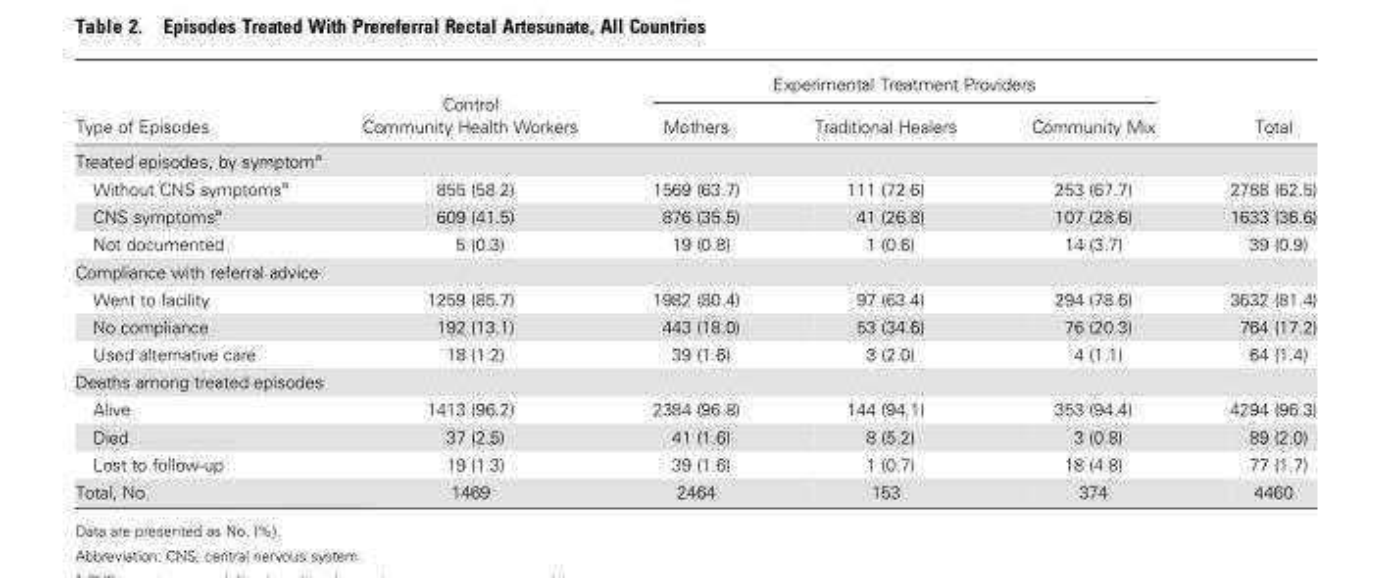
<table><thead><tr><td rowspan="2">Type of Episodes</td><td rowspan="2">Control Community Health Workers</td><td colspan="3">Experimental Treatment Providers</td><td rowspan="2">Total</td></tr><tr><td>Mothers</td><td>Traditional Healers</td><td>Community Mix</td></tr></thead><tbody><tr><td colspan="6">Treated episodes, by symptom<sup>a</sup></td></tr><tr><td>Without CNS symptoms<sup>a</sup></td><td>855 (58.2)</td><td>1569 (63.7)</td><td>111 (72.6)</td><td>253 (67.7)</td><td>2788 (62.5)</td></tr><tr><td>CNS symptoms<sup>a</sup></td><td>609 (41.5)</td><td>876 (35.5)</td><td>41 (26.8)</td><td>107 (28.6)</td><td>1633 (36.6)</td></tr><tr><td>Not documented</td><td>5 (0.3)</td><td>19 (0.8)</td><td>1 (0.6)</td><td>14 (3.7)</td><td>39 (0.9)</td></tr><tr><td colspan="6">Compliance with referral advice</td></tr><tr><td>Went to facility</td><td>1259 (85.7)</td><td>1982 (80.4)</td><td>97 (63.4)</td><td>294 (78.6)</td><td>3632 (81.4)</td></tr><tr><td>No compliance</td><td>192 (13.1)</td><td>443 (18.0)</td><td>53 (34.6)</td><td>76 (20.3)</td><td>764 (17.2)</td></tr><tr><td>Used alternative care</td><td>18 (1.2)</td><td>39 (1.6)</td><td>3 (2.0)</td><td>4 (1.1)</td><td>64 (1.4)</td></tr><tr><td colspan="6">Deaths among treated episodes</td></tr><tr><td>Alive</td><td>1413 (96.2)</td><td>2384 (96.8)</td><td>144 (94.1)</td><td>353 (94.4)</td><td>4294 (96.3)</td></tr><tr><td>Died</td><td>37 (2.5)</td><td>41 (1.6)</td><td>8 (5.2)</td><td>3 (0.8)</td><td>89 (2.0)</td></tr><tr><td>Lost to follow-up</td><td>19 (1.3)</td><td>39 (1.6)</td><td>1 (0.7)</td><td>18 (4.8)</td><td>77 (1.7)</td></tr><tr><td>Total, No.</td><td>1469</td><td>2464</td><td>153</td><td>374</td><td>4460</td></tr></tbody></table>